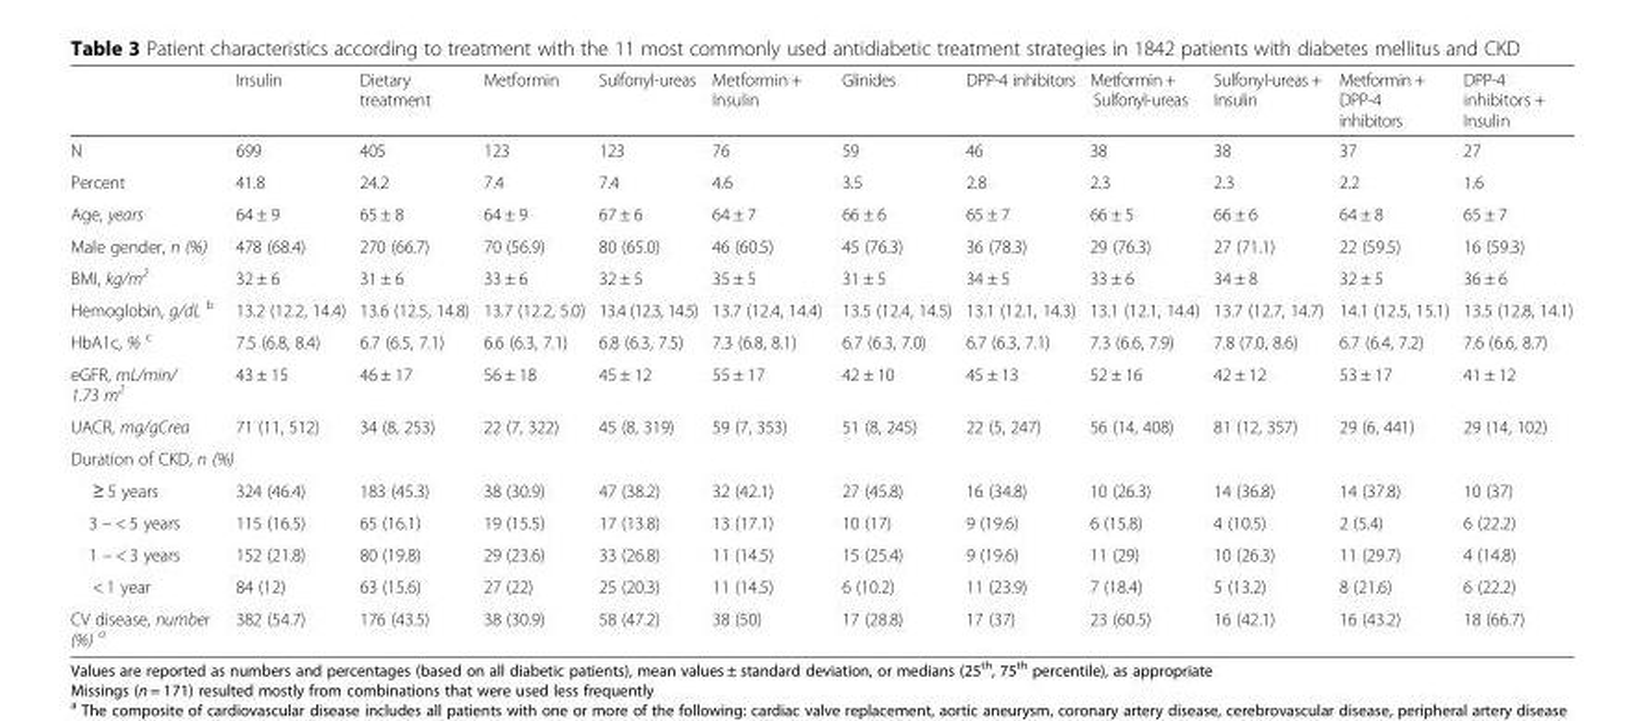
<table><thead><tr><td></td><td>Insulin</td><td>Dietary treatment</td><td>Metformin</td><td>Sulfonyl-ureas</td><td>Metformin + Insulin</td><td>Glinides</td><td>DPP-4 inhibitors</td><td>Metformin + Sulfonyl-ureas</td><td>Sulfonyl-ureas + Insulin</td><td>Metformin + DPP-4 inhibitors</td><td>DPP-4 inhibitors + Insulin</td></tr></thead><tbody><tr><td>N</td><td>699</td><td>405</td><td>123</td><td>123</td><td>76</td><td>59</td><td>46</td><td>38</td><td>38</td><td>37</td><td>27</td></tr><tr><td>Percent</td><td>41.8</td><td>24.2</td><td>7.4</td><td>7.4</td><td>4.6</td><td>3.5</td><td>2.8</td><td>2.3</td><td>2.3</td><td>2.2</td><td>1.6</td></tr><tr><td>Age, years</td><td>64 ± 9</td><td>65 ± 8</td><td>64 ± 9</td><td>67 ± 6</td><td>64 ± 7</td><td>66 ± 6</td><td>65 ± 7</td><td>66 ± 5</td><td>66 ± 6</td><td>64 ± 8</td><td>65 ± 7</td></tr><tr><td>Male gender, n (%)</td><td>478 (68.4)</td><td>270 (66.7)</td><td>70 (56.9)</td><td>80 (65.0)</td><td>46 (60.5)</td><td>45 (76.3)</td><td>36 (78.3)</td><td>29 (76.3)</td><td>27 (71.1)</td><td>22 (59.5)</td><td>16 (59.3)</td></tr><tr><td>BMI, kg/m<sup>2</sup></td><td>32 ± 6</td><td>31 ± 6</td><td>33 ± 6</td><td>32 ± 5</td><td>35 ± 5</td><td>31 ± 5</td><td>34 ± 5</td><td>33 ± 6</td><td>34 ± 8</td><td>32 ± 5</td><td>36 ± 6</td></tr><tr><td>Hemoglobin, g/dL <sup>b</sup></td><td>13.2 (12.2, 14.4)</td><td>13.6 (12.5, 14.8)</td><td>13.7 (12.2, 5.0)</td><td>13.4 (12.3, 14.5)</td><td>13.7 (12.4, 14.4)</td><td>13.5 (12.4, 14.5)</td><td>13.1 (12.1, 14.3)</td><td>13.1 (12.1, 14.4)</td><td>13.7 (12.7, 14.7)</td><td>14.1 (12.5, 15.1)</td><td>13.5 (12.8, 14.1)</td></tr><tr><td>HbA1c, % <sup>c</sup></td><td>7.5 (6.8, 8.4)</td><td>6.7 (6.5, 7.1)</td><td>6.6 (6.3, 7.1)</td><td>6.8 (6.3, 7.5)</td><td>7.3 (6.8, 8.1)</td><td>6.7 (6.3, 7.0)</td><td>6.7 (6.3, 7.1)</td><td>7.3 (6.6, 7.9)</td><td>7.8 (7.0, 8.6)</td><td>6.7 (6.4, 7.2)</td><td>7.6 (6.6, 8.7)</td></tr><tr><td>eGFR, mL/min/ 1.73 m<sup>2</sup></td><td>43 ± 15</td><td>46 ± 17</td><td>56 ± 18</td><td>45 ± 12</td><td>55 ± 17</td><td>42 ± 10</td><td>45 ± 13</td><td>52 ± 16</td><td>42 ± 12</td><td>53 ± 17</td><td>41 ± 12</td></tr><tr><td>UACR, mg/gCrea</td><td>71 (11, 512)</td><td>34 (8, 253)</td><td>22 (7, 322)</td><td>45 (8, 319)</td><td>59 (7, 353)</td><td>51 (8, 245)</td><td>22 (5, 247)</td><td>56 (14, 408)</td><td>81 (12, 357)</td><td>29 (6, 441)</td><td>29 (14, 102)</td></tr><tr><td colspan="12">Duration of CKD, n (%)</td></tr><tr><td>≥ 5 years</td><td>324 (46.4)</td><td>183 (45.3)</td><td>38 (30.9)</td><td>47 (38.2)</td><td>32 (42.1)</td><td>27 (45.8)</td><td>16 (34.8)</td><td>10 (26.3)</td><td>14 (36.8)</td><td>14 (37.8)</td><td>10 (37)</td></tr><tr><td>3 – &lt; 5 years</td><td>115 (16.5)</td><td>65 (16.1)</td><td>19 (15.5)</td><td>17 (13.8)</td><td>13 (17.1)</td><td>10 (17)</td><td>9 (19.6)</td><td>6 (15.8)</td><td>4 (10.5)</td><td>2 (5.4)</td><td>6 (22.2)</td></tr><tr><td>1 – &lt; 3 years</td><td>152 (21.8)</td><td>80 (19.8)</td><td>29 (23.6)</td><td>33 (26.8)</td><td>11 (14.5)</td><td>15 (25.4)</td><td>9 (19.6)</td><td>11 (29)</td><td>10 (26.3)</td><td>11 (29.7)</td><td>4 (14.8)</td></tr><tr><td>&lt; 1 year</td><td>84 (12)</td><td>63 (15.6)</td><td>27 (22)</td><td>25 (20.3)</td><td>11 (14.5)</td><td>6 (10.2)</td><td>11 (23.9)</td><td>7 (18.4)</td><td>5 (13.2)</td><td>8 (21.6)</td><td>6 (22.2)</td></tr><tr><td>CV disease, number (%) <sup>a</sup></td><td>382 (54.7)</td><td>176 (43.5)</td><td>38 (30.9)</td><td>58 (47.2)</td><td>38 (50)</td><td>17 (28.8)</td><td>17 (37)</td><td>23 (60.5)</td><td>16 (42.1)</td><td>16 (43.2)</td><td>18 (66.7)</td></tr></tbody></table>